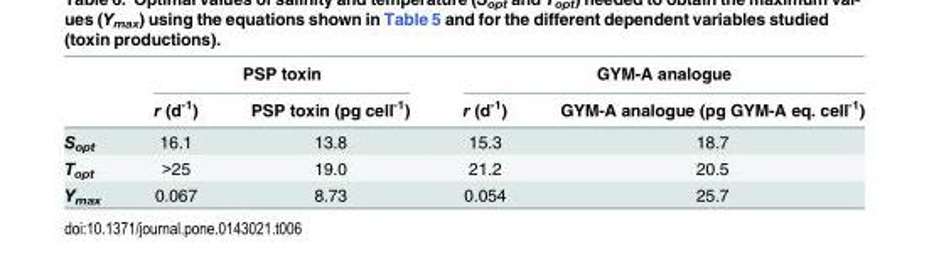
<table><thead><tr><td rowspan="2"></td><td colspan="2">PSP toxin</td><td colspan="2">GYM-A analogue</td></tr><tr><td>r (d<sup>-1</sup>)</td><td>PSP toxin (pg cell<sup>-1</sup>)</td><td>r (d<sup>-1</sup>)</td><td>GYM-A analogue (pg GYM-A eq. cell<sup>-1</sup>)</td></tr></thead><tbody><tr><td>S<sub>opt</sub></td><td>16.1</td><td>13.8</td><td>15.3</td><td>18.7</td></tr><tr><td>T<sub>opt</sub></td><td>&gt;25</td><td>19.0</td><td>21.2</td><td>20.5</td></tr><tr><td>Y<sub>max</sub></td><td>0.067</td><td>8.73</td><td>0.054</td><td>25.7</td></tr></tbody></table>